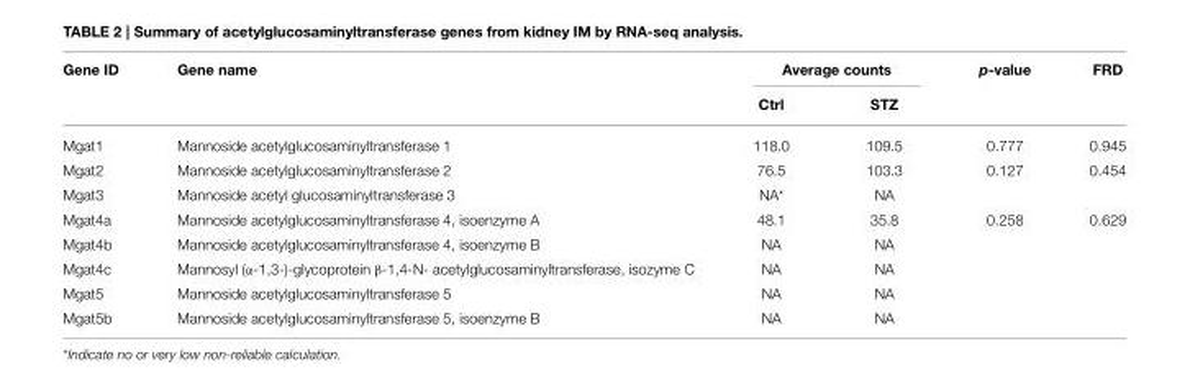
<table><thead><tr><td rowspan="2">Gene ID</td><td rowspan="2">Gene name</td><td colspan="2">Average counts</td><td rowspan="2">p-value</td><td rowspan="2">FRD</td></tr><tr><td>Ctrl</td><td>STZ</td></tr></thead><tbody><tr><td>Mgat1</td><td>Mannoside acetylglucosaminyltransferase 1</td><td>118.0</td><td>109.5</td><td>0.777</td><td>0.945</td></tr><tr><td>Mgat2</td><td>Mannoside acetylglucosaminyltransferase 2</td><td>76.5</td><td>103.3</td><td>0.127</td><td>0.454</td></tr><tr><td>Mgat3</td><td>Mannoside acetyl glucosaminyltransferase 3</td><td>NA*</td><td>NA</td><td></td><td></td></tr><tr><td>Mgat4a</td><td>Mannoside acetylglucosaminyltransferase 4, isoenzyme A</td><td>48.1</td><td>35.8</td><td>0.258</td><td>0.629</td></tr><tr><td>Mgat4b</td><td>Mannoside acetylglucosaminyltransferase 4, isoenzyme B</td><td>NA</td><td>NA</td><td></td><td></td></tr><tr><td>Mgat4c</td><td>Mannosyl (α-1,3-)-glycoprotein β-1,4-N- acetylglucosaminyltransferase, isozyme C</td><td>NA</td><td>NA</td><td></td><td></td></tr><tr><td>Mgat5</td><td>Mannoside acetylglucosaminyltransferase 5</td><td>NA</td><td>NA</td><td></td><td></td></tr><tr><td>Mgat5b</td><td>Mannoside acetylglucosaminyltransferase 5, isoenzyme B</td><td>NA</td><td>NA</td><td></td><td></td></tr></tbody></table>